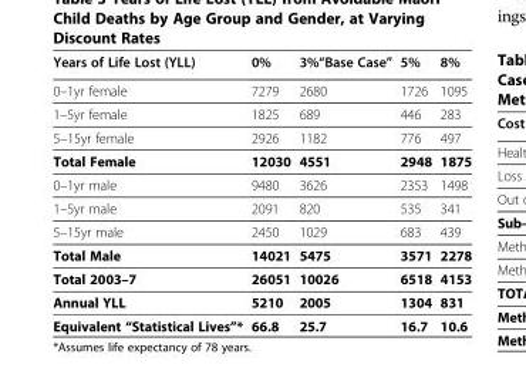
<table><thead><tr><td>Years of Life Lost (YLL)</td><td>0%</td><td>3%“Base Case”</td><td>5%</td><td>8%</td></tr></thead><tbody><tr><td>0–1yr female</td><td>7279</td><td>2680</td><td>1726</td><td>1095</td></tr><tr><td>1–5yr female</td><td>1825</td><td>689</td><td>446</td><td>283</td></tr><tr><td>5–15yr female</td><td>2926</td><td>1182</td><td>776</td><td>497</td></tr><tr><td>Total Female</td><td>12030</td><td>4551</td><td>2948</td><td>1875</td></tr><tr><td>0–1yr male</td><td>9480</td><td>3626</td><td>2353</td><td>1498</td></tr><tr><td>1–5yr male</td><td>2091</td><td>820</td><td>535</td><td>341</td></tr><tr><td>5–15yr male</td><td>2450</td><td>1029</td><td>683</td><td>439</td></tr><tr><td>Total Male</td><td>14021</td><td>5475</td><td>3571</td><td>2278</td></tr><tr><td>Total 2003–7</td><td>26051</td><td>10026</td><td>6518</td><td>4153</td></tr><tr><td>Annual YLL</td><td>5210</td><td>2005</td><td>1304</td><td>831</td></tr><tr><td>Equivalent “Statistical Lives”*</td><td>66.8</td><td>25.7</td><td>16.7</td><td>10.6</td></tr></tbody></table>